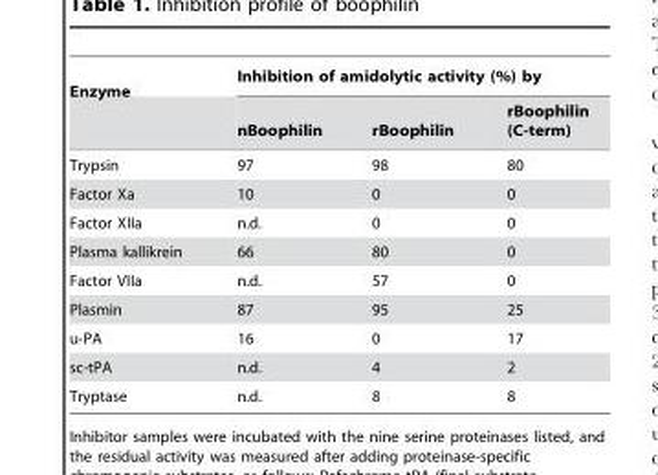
<table><thead><tr><td rowspan="2">Enzyme</td><td colspan="3">Inhibition of amidolytic activity (%) by</td></tr><tr><td>nBoophilin</td><td>rBoophilin</td><td>rBoophilin (C-term)</td></tr></thead><tbody><tr><td>Trypsin</td><td>97</td><td>98</td><td>80</td></tr><tr><td>Factor Xa</td><td>10</td><td>0</td><td>0</td></tr><tr><td>Factor XIIa</td><td>n.d.</td><td>0</td><td>0</td></tr><tr><td>Plasma kallikrein</td><td>66</td><td>80</td><td>0</td></tr><tr><td>Factor VIIa</td><td>n.d.</td><td>57</td><td>0</td></tr><tr><td>Plasmin</td><td>87</td><td>95</td><td>25</td></tr><tr><td>u-PA</td><td>16</td><td>0</td><td>17</td></tr><tr><td>sc-tPA</td><td>n.d.</td><td>4</td><td>2</td></tr><tr><td>Tryptase</td><td>n.d.</td><td>8</td><td>8</td></tr></tbody></table>